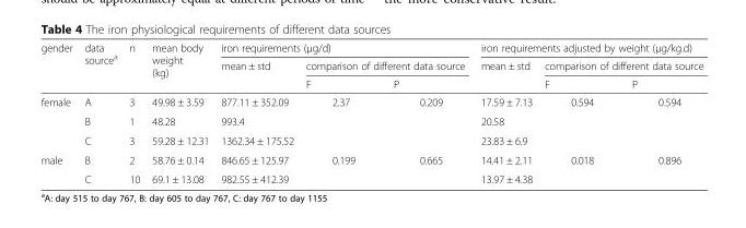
<table><thead><tr><td rowspan="3">gender</td><td rowspan="3">data source<sup>a</sup></td><td rowspan="3">n</td><td rowspan="3">mean body weight (kg)</td><td colspan="3">iron requirements (μg/d)</td><td colspan="3">iron requirements adjusted by weight (μg/kg.d)</td></tr><tr><td rowspan="2">mean ± std</td><td colspan="2">comparison of different data source</td><td rowspan="2">mean ± std</td><td colspan="2">comparison of different data source</td></tr><tr><td>F</td><td>P</td><td>F</td><td>P</td></tr></thead><tbody><tr><td rowspan="3">female</td><td>A</td><td>3</td><td>49.98 ± 3.59</td><td>877.11 ± 352.09</td><td rowspan="3">2.37</td><td rowspan="3">0.209</td><td>17.59 ± 7.13</td><td rowspan="3">0.594</td><td rowspan="3">0.594</td></tr><tr><td>B</td><td>1</td><td>48.28</td><td>993.4</td><td>20.58</td></tr><tr><td>C</td><td>3</td><td>59.28 ± 12.31</td><td>1362.34 ± 175.52</td><td>23.83 ± 6.9</td></tr><tr><td rowspan="2">male</td><td>B</td><td>2</td><td>58.76 ± 0.14</td><td>846.65 ± 125.97</td><td rowspan="2">0.199</td><td rowspan="2">0.665</td><td>14.41 ± 2.11</td><td rowspan="2">0.018</td><td rowspan="2">0.896</td></tr><tr><td>C</td><td>10</td><td>69.1 ± 13.08</td><td>982.55 ± 412.39</td><td>13.97 ± 4.38</td></tr></tbody></table>